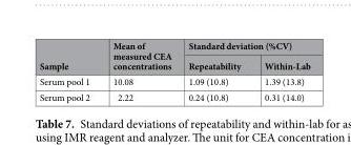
<table><thead><tr><td rowspan="2">Sample</td><td rowspan="2">Mean of measured CEA concentrations</td><td colspan="2">Standard deviation (%CV)</td></tr><tr><td>Repeatability</td><td>Within-Lab</td></tr></thead><tbody><tr><td>Serum pool 1</td><td>10.08</td><td>1.09 (10.8)</td><td>1.39 (13.8)</td></tr><tr><td>Serum pool 2</td><td>2.22</td><td>0.24 (10.8)</td><td>0.31 (14.0)</td></tr></tbody></table>